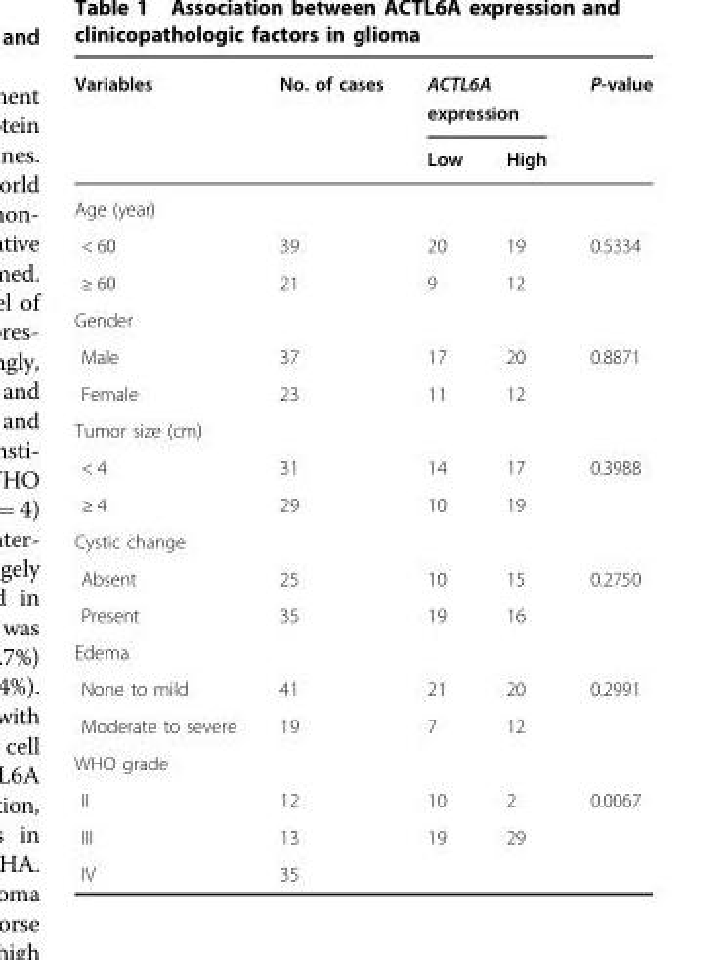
<table><thead><tr><td rowspan="2">Variables</td><td rowspan="2">No. of cases</td><td colspan="2">ACTL6A expression</td><td rowspan="2">P-value</td></tr><tr><td>Low</td><td>High</td></tr></thead><tbody><tr><td colspan="5">Age (year)</td></tr><tr><td>&lt; 60</td><td>39</td><td>20</td><td>19</td><td rowspan="2">0.5334</td></tr><tr><td>≥ 60</td><td>21</td><td>9</td><td>12</td></tr><tr><td colspan="5">Gender</td></tr><tr><td>Male</td><td>37</td><td>17</td><td>20</td><td rowspan="2">0.8871</td></tr><tr><td>Female</td><td>23</td><td>11</td><td>12</td></tr><tr><td colspan="5">Tumor size (cm)</td></tr><tr><td>&lt; 4</td><td>31</td><td>14</td><td>17</td><td rowspan="2">0.3988</td></tr><tr><td>≥ 4</td><td>29</td><td>10</td><td>19</td></tr><tr><td colspan="5">Cystic change</td></tr><tr><td>Absent</td><td>25</td><td>10</td><td>15</td><td rowspan="2">0.2750</td></tr><tr><td>Present</td><td>35</td><td>19</td><td>16</td></tr><tr><td colspan="5">Edema</td></tr><tr><td>None to mild</td><td>41</td><td>21</td><td>20</td><td rowspan="2">0.2991</td></tr><tr><td>Moderate to severe</td><td>19</td><td>7</td><td>12</td></tr><tr><td colspan="5">WHO grade</td></tr><tr><td>II</td><td>12</td><td>10</td><td>2</td><td rowspan="3">0.0067</td></tr><tr><td>III</td><td>13</td><td>19</td><td>29</td></tr><tr><td>IV</td><td>35</td><td></td><td></td></tr></tbody></table>